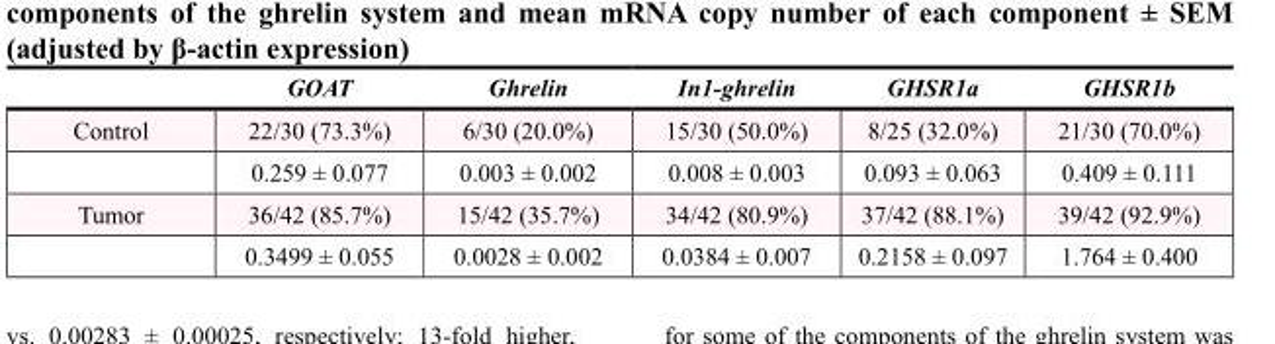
<table><thead><tr><td></td><td>GOAT</td><td>Ghrelin</td><td>In1-ghrelin</td><td>GHSR1a</td><td>GHSR1b</td></tr></thead><tbody><tr><td rowspan="2">Control</td><td>22/30 (73.3%)</td><td>6/30 (20.0%)</td><td>15/30 (50.0%)</td><td>8/25 (32.0%)</td><td>21/30 (70.0%)</td></tr><tr><td>0.259 ± 0.077</td><td>0.003 ± 0.002</td><td>0.008 ± 0.003</td><td>0.093 ± 0.063</td><td>0.409 ± 0.111</td></tr><tr><td rowspan="2">Tumor</td><td>36/42 (85.7%)</td><td>15/42 (35.7%)</td><td>34/42 (80.9%)</td><td>37/42 (88.1%)</td><td>39/42 (92.9%)</td></tr><tr><td>0.3499 ± 0.055</td><td>0.0028 ± 0.002</td><td>0.0384 ± 0.007</td><td>0.2158 ± 0.097</td><td>1.764 ± 0.400</td></tr></tbody></table>